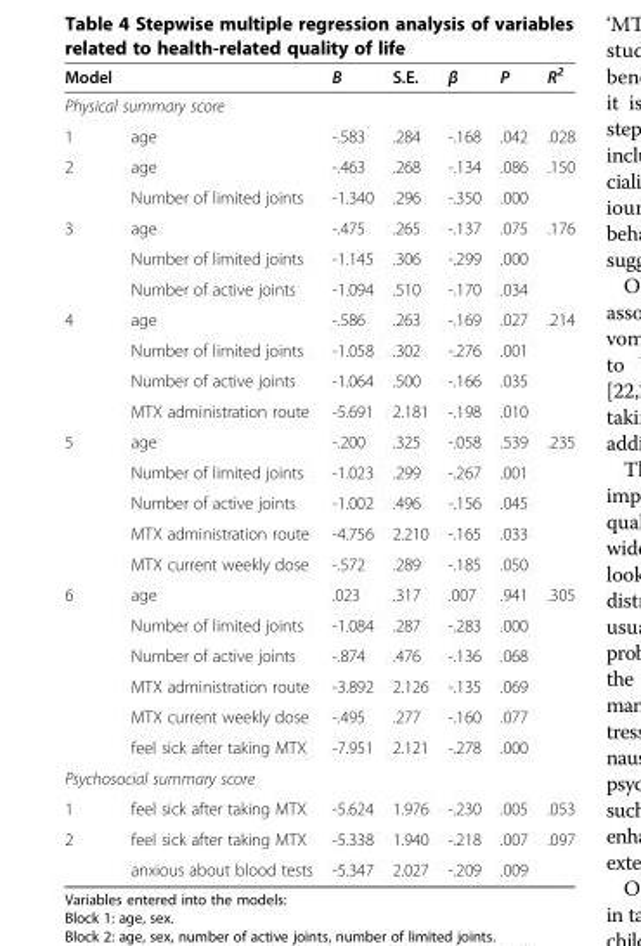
<table><thead><tr><td>Model</td><td></td><td>B</td><td>S.E.</td><td>β</td><td>P</td><td>R<sup>2</sup></td></tr></thead><tbody><tr><td colspan="7">Physical summary score</td></tr><tr><td>1</td><td>age</td><td>-.583</td><td>.284</td><td>-.168</td><td>.042</td><td>.028</td></tr><tr><td rowspan="2">2</td><td>age</td><td>-.463</td><td>.268</td><td>-.134</td><td>.086</td><td>.150</td></tr><tr><td>Number of limited joints</td><td>-1.340</td><td>.296</td><td>-.350</td><td>.000</td><td></td></tr><tr><td rowspan="3">3</td><td>age</td><td>-.475</td><td>.265</td><td>-.137</td><td>.075</td><td>.176</td></tr><tr><td>Number of limited joints</td><td>-1.145</td><td>.306</td><td>-.299</td><td>.000</td><td></td></tr><tr><td>Number of active joints</td><td>-1.094</td><td>.510</td><td>-.170</td><td>.034</td><td></td></tr><tr><td rowspan="4">4</td><td>age</td><td>-.586</td><td>.263</td><td>-.169</td><td>.027</td><td>.214</td></tr><tr><td>Number of limited joints</td><td>-1.058</td><td>.302</td><td>-.276</td><td>.001</td><td></td></tr><tr><td>Number of active joints</td><td>-1.064</td><td>.500</td><td>-.166</td><td>.035</td><td></td></tr><tr><td>MTX administration route</td><td>-5.691</td><td>2.181</td><td>-.198</td><td>.010</td><td></td></tr><tr><td rowspan="5">5</td><td>age</td><td>-.200</td><td>.325</td><td>-.058</td><td>.539</td><td>.235</td></tr><tr><td>Number of limited joints</td><td>-1.023</td><td>.299</td><td>-.267</td><td>.001</td><td></td></tr><tr><td>Number of active joints</td><td>-1.002</td><td>.496</td><td>-.156</td><td>.045</td><td></td></tr><tr><td>MTX administration route</td><td>-4.756</td><td>2.210</td><td>-.165</td><td>.033</td><td></td></tr><tr><td>MTX current weekly dose</td><td>-.572</td><td>.289</td><td>-.185</td><td>.050</td><td></td></tr><tr><td rowspan="6">6</td><td>age</td><td>.023</td><td>.317</td><td>.007</td><td>.941</td><td>.305</td></tr><tr><td>Number of limited joints</td><td>-1.084</td><td>.287</td><td>-.283</td><td>.000</td><td></td></tr><tr><td>Number of active joints</td><td>-.874</td><td>.476</td><td>-.136</td><td>.068</td><td></td></tr><tr><td>MTX administration route</td><td>-3.892</td><td>2.126</td><td>-.135</td><td>.069</td><td></td></tr><tr><td>MTX current weekly dose</td><td>-.495</td><td>.277</td><td>-.160</td><td>.077</td><td></td></tr><tr><td>feel sick after taking MTX</td><td>-7.951</td><td>2.121</td><td>-.278</td><td>.000</td><td></td></tr><tr><td colspan="7">Psychosocial summary score</td></tr><tr><td>1</td><td>feel sick after taking MTX</td><td>-5.624</td><td>1.976</td><td>-.230</td><td>.005</td><td>.053</td></tr><tr><td rowspan="2">2</td><td>feel sick after taking MTX</td><td>-5.338</td><td>1.940</td><td>-.218</td><td>.007</td><td>.097</td></tr><tr><td>anxious about blood tests</td><td>-5.347</td><td>2.027</td><td>-.209</td><td>.009</td><td></td></tr></tbody></table>